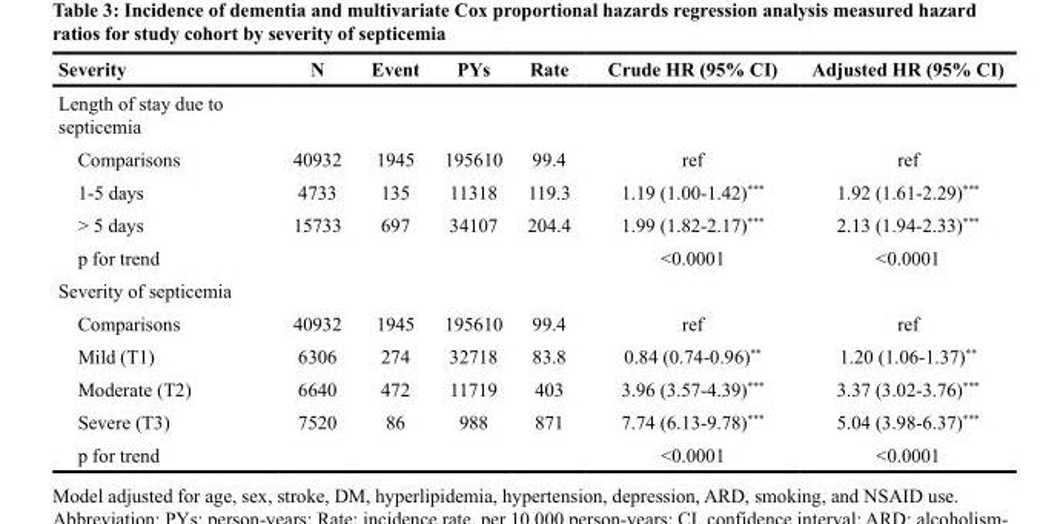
<table><thead><tr><td>Severity</td><td>N</td><td>Event</td><td>PYs</td><td>Rate</td><td>Crude HR (95% CI)</td><td>Adjusted HR (95% CI)</td></tr></thead><tbody><tr><td colspan="7">Length of stay due to septicemia</td></tr><tr><td>Comparisons</td><td>40932</td><td>1945</td><td>195610</td><td>99.4</td><td>ref</td><td>ref</td></tr><tr><td>1-5 days</td><td>4733</td><td>135</td><td>11318</td><td>119.3</td><td>1.19 (1.00-1.42)***</td><td>1.92 (1.61-2.29)***</td></tr><tr><td>&gt; 5 days</td><td>15733</td><td>697</td><td>34107</td><td>204.4</td><td>1.99 (1.82-2.17)***</td><td>2.13 (1.94-2.33)***</td></tr><tr><td>p for trend</td><td></td><td></td><td></td><td></td><td>&lt;0.0001</td><td>&lt;0.0001</td></tr><tr><td colspan="7">Severity of septicemia</td></tr><tr><td>Comparisons</td><td>40932</td><td>1945</td><td>195610</td><td>99.4</td><td>ref</td><td>ref</td></tr><tr><td>Mild (T1)</td><td>6306</td><td>274</td><td>32718</td><td>83.8</td><td>0.84 (0.74-0.96)**</td><td>1.20 (1.06-1.37)**</td></tr><tr><td>Moderate (T2)</td><td>6640</td><td>472</td><td>11719</td><td>403</td><td>3.96 (3.57-4.39)***</td><td>3.37 (3.02-3.76)***</td></tr><tr><td>Severe (T3)</td><td>7520</td><td>86</td><td>988</td><td>871</td><td>7.74 (6.13-9.78)***</td><td>5.04 (3.98-6.37)***</td></tr><tr><td>p for trend</td><td></td><td></td><td></td><td></td><td>&lt;0.0001</td><td>&lt;0.0001</td></tr></tbody></table>